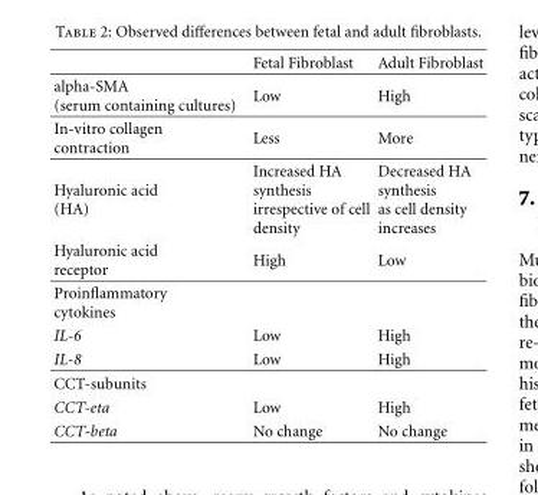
<table><thead><tr><td></td><td>Fetal Fibroblast</td><td>Adult Fibroblast</td></tr></thead><tbody><tr><td>alpha-SMA (serum containing cultures)</td><td>Low</td><td>High</td></tr><tr><td>In-vitro collagen contraction</td><td>Less</td><td>More</td></tr><tr><td>Hyaluronic acid (HA)</td><td>Increased HA synthesis irrespective of cell density</td><td>Decreased HA synthesis as cell density increases</td></tr><tr><td>Hyaluronic acid receptor</td><td>High</td><td>Low</td></tr><tr><td colspan="3">Proinflammatory cytokines</td></tr><tr><td>IL-6</td><td>Low</td><td>High</td></tr><tr><td>IL-8</td><td>Low</td><td>High</td></tr><tr><td colspan="3">CCT-subunits</td></tr><tr><td>CCT-eta</td><td>Low</td><td>High</td></tr><tr><td>CCT-beta</td><td>No change</td><td>No change</td></tr></tbody></table>